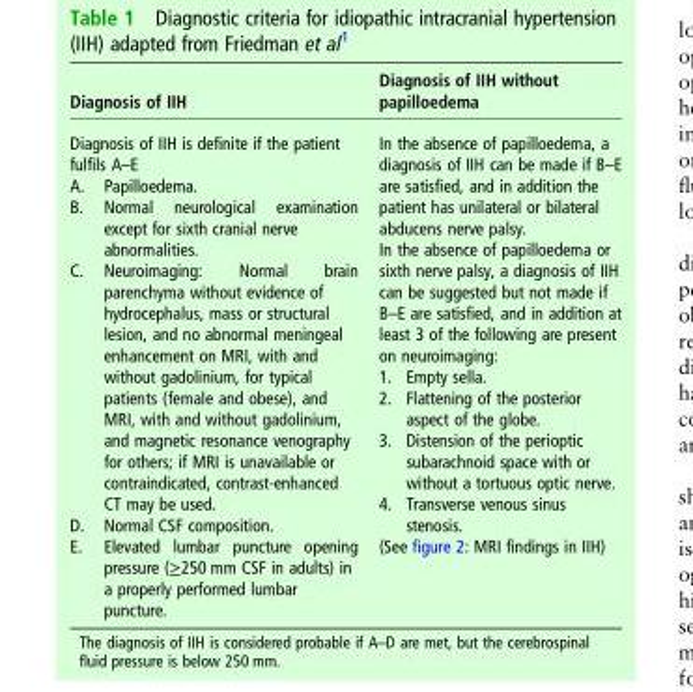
<table><thead><tr><td>Diagnosis of IIH</td><td>Diagnosis of IIH without papilloedema</td></tr></thead><tbody><tr><td>Diagnosis of IIH is definite if the patient fulfils A–E A. Papilloedema. B. Normal neurological examination except for sixth cranial nerve abnormalities. C. Neuroimaging: Normal brain parenchyma without evidence of hydrocephalus, mass or structural lesion, and no abnormal meningeal enhancement on MRI, with and without gadolinium, for typical patients (female and obese), and MRI, with and without gadolinium, and magnetic resonance venography for others; if MRI is unavailable or contraindicated, contrast-enhanced CT may be used. D. Normal CSF composition. E. Elevated lumbar puncture opening pressure (≥250 mm CSF in adults) in a properly performed lumbar puncture.</td><td>In the absence of papilloedema, a diagnosis of IIH can be made if B–E are satisfied, and in addition the patient has unilateral or bilateral abducens nerve palsy. In the absence of papilloedema or sixth nerve palsy, a diagnosis of IIH can be suggested but not made if B–E are satisfied, and in addition at least 3 of the following are present on neuroimaging: 1. Empty sella. 2. Flattening of the posterior aspect of the globe. 3. Distension of the perioptic subarachnoid space with or without a tortuous optic nerve. 4. Transverse venous sinus stenosis. (See figure 2: MRI findings in IIH)</td></tr></tbody></table>